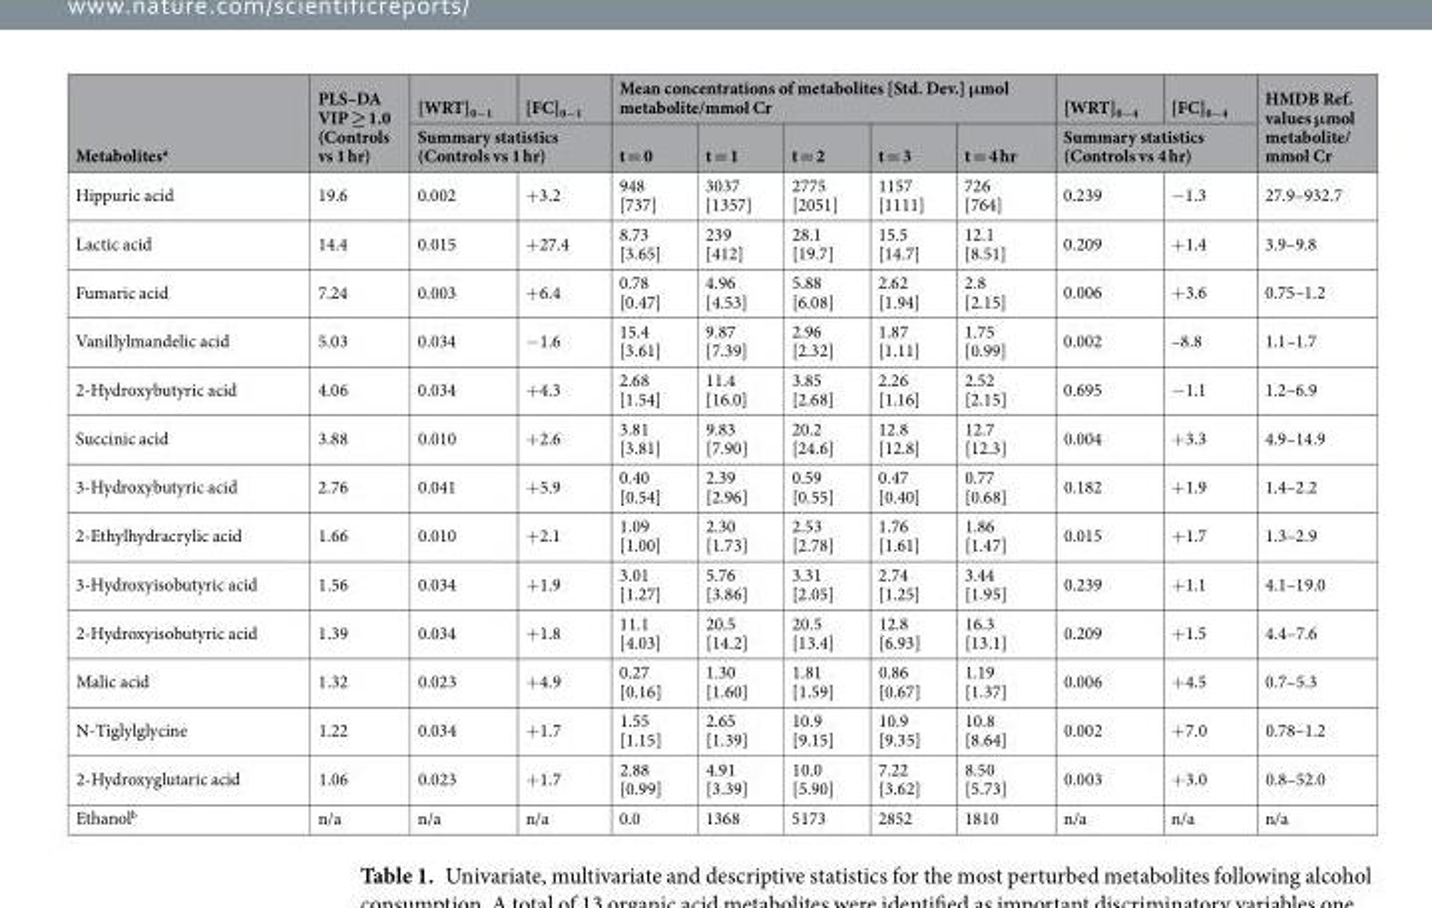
<table><thead><tr><td rowspan="2">Metabolites<sup>a</sup></td><td rowspan="2">PLS–DA VIP ≥ 1.0 (Controls vs 1 hr)</td><td>[WRT]<sub>0−1</sub></td><td>[FC]<sub>0−1</sub></td><td colspan="5">Mean concentrations of metabolites [Std. Dev.] μmol metabolite/mmol Cr</td><td>[WRT]<sub>0−4</sub></td><td>[FC]<sub>0−4</sub></td><td rowspan="2">HMDB Ref. values μmol metabolite/ mmol Cr</td></tr><tr><td colspan="2">Summary statistics (Controls vs 1 hr)</td><td>t = 0</td><td>t = 1</td><td>t = 2</td><td>t = 3</td><td>t = 4 hr</td><td colspan="2">Summary statistics (Controls vs 4 hr)</td></tr></thead><tbody><tr><td>Hippuric acid</td><td>19.6</td><td>0.002</td><td>+3.2</td><td>948 [737]</td><td>3037 [1357]</td><td>2775 [2051]</td><td>1157 [1111]</td><td>726 [764]</td><td>0.239</td><td>−1.3</td><td>27.9–932.7</td></tr><tr><td>Lactic acid</td><td>14.4</td><td>0.015</td><td>+27.4</td><td>8.73 [3.65]</td><td>239 [412]</td><td>28.1 [19.7]</td><td>15.5 [14.7]</td><td>12.1 [8.51]</td><td>0.209</td><td>+1.4</td><td>3.9–9.8</td></tr><tr><td>Fumaric acid</td><td>7.24</td><td>0.003</td><td>+6.4</td><td>0.78 [0.47]</td><td>4.96 [4.53]</td><td>5.88 [6.08]</td><td>2.62 [1.94]</td><td>2.8 [2.15]</td><td>0.006</td><td>+3.6</td><td>0.75–1.2</td></tr><tr><td>Vanillylmandelic acid</td><td>5.03</td><td>0.034</td><td>−1.6</td><td>15.4 [3.61]</td><td>9.87 [7.39]</td><td>2.96 [2.32]</td><td>1.87 [1.11]</td><td>1.75 [0.99]</td><td>0.002</td><td>–8.8</td><td>1.1–1.7</td></tr><tr><td>2-Hydroxybutyric acid</td><td>4.06</td><td>0.034</td><td>+4.3</td><td>2.68 [1.54]</td><td>11.4 [16.0]</td><td>3.85 [2.68]</td><td>2.26 [1.16]</td><td>2.52 [2.15]</td><td>0.695</td><td>−1.1</td><td>1.2–6.9</td></tr><tr><td>Succinic acid</td><td>3.88</td><td>0.010</td><td>+2.6</td><td>3.81 [3.81]</td><td>9.83 [7.90]</td><td>20.2 [24.6]</td><td>12.8 [12.8]</td><td>12.7 [12.3]</td><td>0.004</td><td>+3.3</td><td>4.9–14.9</td></tr><tr><td>3-Hydroxybutyric acid</td><td>2.76</td><td>0.041</td><td>+5.9</td><td>0.40 [0.54]</td><td>2.39 [2.96]</td><td>0.59 [0.55]</td><td>0.47 [0.40]</td><td>0.77 [0.68]</td><td>0.182</td><td>+1.9</td><td>1.4–2.2</td></tr><tr><td>2-Ethylhydracrylic acid</td><td>1.66</td><td>0.010</td><td>+2.1</td><td>1.09 [1.00]</td><td>2.30 [1.73]</td><td>2.53 [2.78]</td><td>1.76 [1.61]</td><td>1.86 [1.47]</td><td>0.015</td><td>+1.7</td><td>1.3–2.9</td></tr><tr><td>3-Hydroxyisobutyric acid</td><td>1.56</td><td>0.034</td><td>+1.9</td><td>3.01 [1.27]</td><td>5.76 [3.86]</td><td>3.31 [2.05]</td><td>2.74 [1.25]</td><td>3.44 [1.95]</td><td>0.239</td><td>+1.1</td><td>4.1–19.0</td></tr><tr><td>2-Hydroxyisobutyric acid</td><td>1.39</td><td>0.034</td><td>+1.8</td><td>11.1 [4.03]</td><td>20.5 [14.2]</td><td>20.5 [13.4]</td><td>12.8 [6.93]</td><td>16.3 [13.1]</td><td>0.209</td><td>+1.5</td><td>4.4–7.6</td></tr><tr><td>Malic acid</td><td>1.32</td><td>0.023</td><td>+4.9</td><td>0.27 [0.16]</td><td>1.30 [1.60]</td><td>1.81 [1.59]</td><td>0.86 [0.67]</td><td>1.19 [1.37]</td><td>0.006</td><td>+4.5</td><td>0.7–5.3</td></tr><tr><td>N-Tiglylglycine</td><td>1.22</td><td>0.034</td><td>+1.7</td><td>1.55 [1.15]</td><td>2.65 [1.39]</td><td>10.9 [9.15]</td><td>10.9 [9.35]</td><td>10.8 [8.64]</td><td>0.002</td><td>+7.0</td><td>0.78–1.2</td></tr><tr><td>2-Hydroxyglutaric acid</td><td>1.06</td><td>0.023</td><td>+1.7</td><td>2.88 [0.99]</td><td>4.91 [3.39]</td><td>10.0 [5.90]</td><td>7.22 [3.62]</td><td>8.50 [5.73]</td><td>0.003</td><td>+3.0</td><td>0.8–52.0</td></tr><tr><td>Ethanol<sup>b</sup></td><td>n/a</td><td>n/a</td><td>n/a</td><td>0.0</td><td>1368</td><td>5173</td><td>2852</td><td>1810</td><td>n/a</td><td>n/a</td><td>n/a</td></tr></tbody></table>